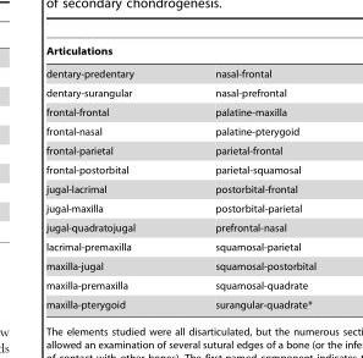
<table><thead><tr><td colspan="2">Articulations</td></tr><tr><td>dentary-predentary</td><td>nasal-frontal</td></tr></thead><tbody><tr><td>dentary-surangular</td><td>nasal-prefrontal</td></tr><tr><td>frontal-frontal</td><td>palatine-maxilla</td></tr><tr><td>frontal-nasal</td><td>palatine-pterygoid</td></tr><tr><td>frontal-parietal</td><td>parietal-frontal</td></tr><tr><td>frontal-postorbital</td><td>parietal-squamosal</td></tr><tr><td>jugal-lacrimal</td><td>postorbital-frontal</td></tr><tr><td>jugal-maxilla</td><td>postorbital-parietal</td></tr><tr><td>jugal-quadratojugal</td><td>prefrontal-nasal</td></tr><tr><td>lacrimal-premaxilla</td><td>squamosal-parietal</td></tr><tr><td>maxilla-jugal</td><td>squamosal-postorbital</td></tr><tr><td>maxilla-premaxilla</td><td>squamosal-quadrate</td></tr><tr><td>maxilla-pterygoid</td><td>surangular-quadrate*</td></tr></tbody></table>